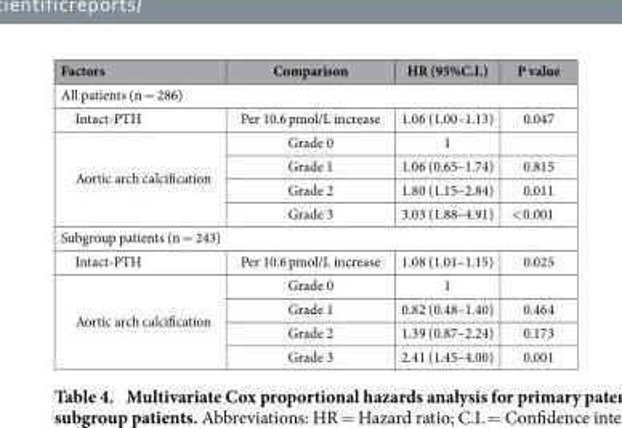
<table><thead><tr><td>Factors</td><td>Comparison</td><td>HR (95%C.I.)</td><td>P value</td></tr></thead><tbody><tr><td colspan="4">All patients (n = 286)</td></tr><tr><td>Intact-PTH</td><td>Per 10.6 pmol/L increase</td><td>1.06 (1.00–1.13)</td><td>0.047</td></tr><tr><td rowspan="4">Aortic arch calcification</td><td>Grade 0</td><td>1</td><td></td></tr><tr><td>Grade 1</td><td>1.06 (0.65–1.74)</td><td>0.815</td></tr><tr><td>Grade 2</td><td>1.80 (1.15–2.84)</td><td>0.011</td></tr><tr><td>Grade 3</td><td>3.03 (1.88–4.91)</td><td>&lt; 0.001</td></tr><tr><td colspan="4">Subgroup patients (n = 243)</td></tr><tr><td>Intact-PTH</td><td>Per 10.6 pmol/L increase</td><td>1.08 (1.01–1.15)</td><td>0.025</td></tr><tr><td rowspan="4">Aortic arch calcification</td><td>Grade 0</td><td>1</td><td></td></tr><tr><td>Grade 1</td><td>0.82 (0.48–1.40)</td><td>0.464</td></tr><tr><td>Grade 2</td><td>1.39 (0.87–2.24)</td><td>0.173</td></tr><tr><td>Grade 3</td><td>2.41 (1.45–4.00)</td><td>0.001</td></tr></tbody></table>